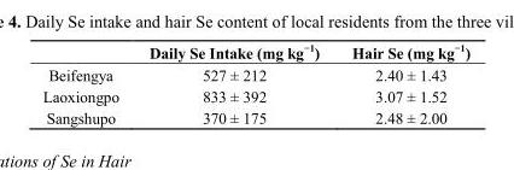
<table><thead><tr><td></td><td>Daily Se Intake (mg kg<sup>−1</sup>)</td><td>Hair Se (mg kg<sup>−1</sup>)</td></tr></thead><tbody><tr><td>Beifengya</td><td>527 ± 212</td><td>2.40 ± 1.43</td></tr><tr><td>Laoxiongpo</td><td>833 ± 392</td><td>3.07 ± 1.52</td></tr><tr><td>Sangshupo</td><td>370 ± 175</td><td>2.48 ± 2.00</td></tr></tbody></table>